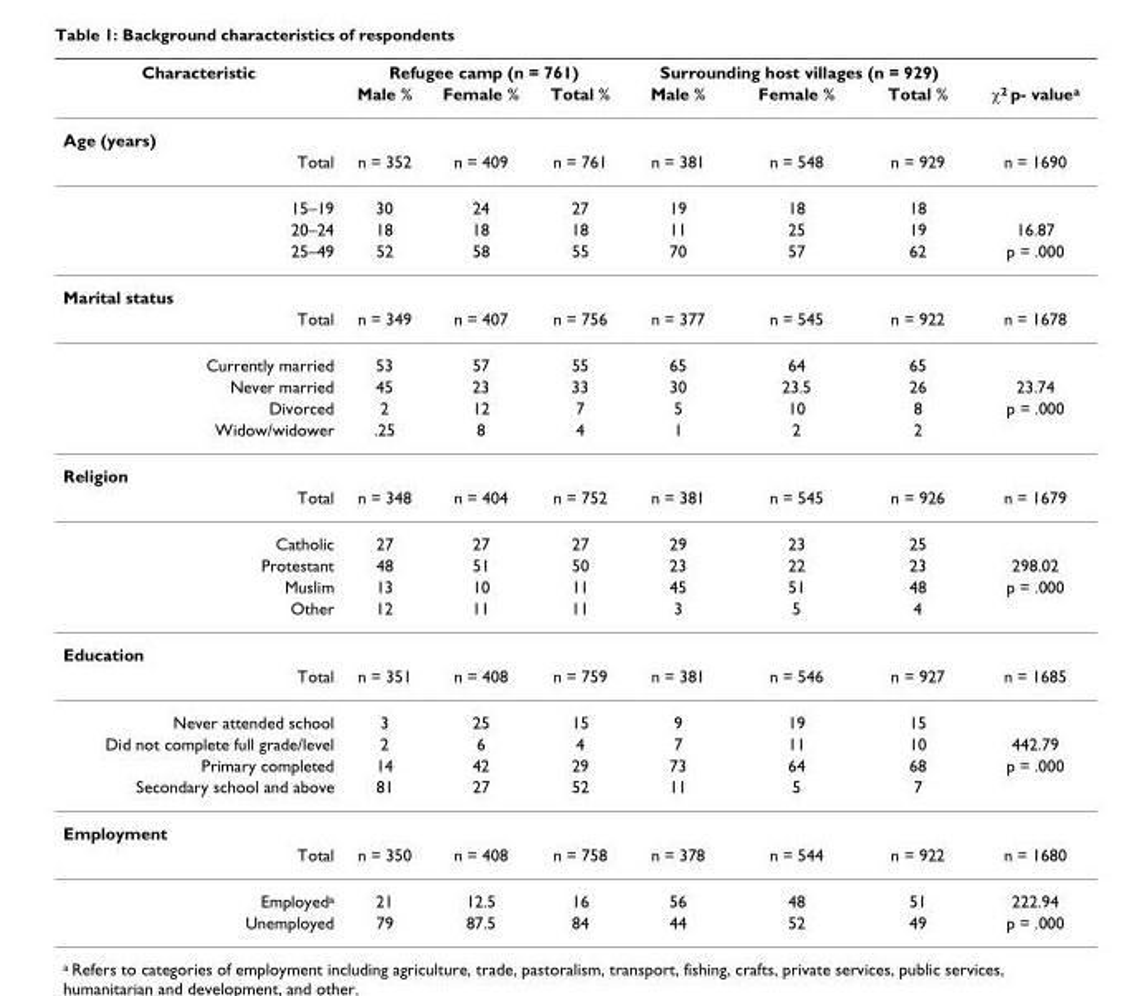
<table><thead><tr><td rowspan="2">Characteristic</td><td colspan="3">Refugee camp (n = 761)</td><td colspan="3">Surrounding host villages (n = 929)</td><td rowspan="2">χ<sup>2</sup> p- value<sup>a</sup></td></tr><tr><td>Male %</td><td>Female %</td><td>Total %</td><td>Male %</td><td>Female %</td><td>Total %</td></tr></thead><tbody><tr><td colspan="8">Age (years)</td></tr><tr><td>Total</td><td>n = 352</td><td>n = 409</td><td>n = 761</td><td>n = 381</td><td>n = 548</td><td>n = 929</td><td>n = 1690</td></tr><tr><td>15–19</td><td>30</td><td>24</td><td>27</td><td>19</td><td>18</td><td>18</td><td></td></tr><tr><td>20–24</td><td>18</td><td>18</td><td>18</td><td>11</td><td>25</td><td>19</td><td>16.87</td></tr><tr><td>25–49</td><td>52</td><td>58</td><td>55</td><td>70</td><td>57</td><td>62</td><td>p = .000</td></tr><tr><td colspan="8">Marital status</td></tr><tr><td>Total</td><td>n = 349</td><td>n = 407</td><td>n = 756</td><td>n = 377</td><td>n = 545</td><td>n = 922</td><td>n = 1678</td></tr><tr><td>Currently married</td><td>53</td><td>57</td><td>55</td><td>65</td><td>64</td><td>65</td><td></td></tr><tr><td>Never married</td><td>45</td><td>23</td><td>33</td><td>30</td><td>23.5</td><td>26</td><td>23.74</td></tr><tr><td>Divorced</td><td>2</td><td>12</td><td>7</td><td>5</td><td>10</td><td>8</td><td>p = .000</td></tr><tr><td>Widow/widower</td><td>.25</td><td>8</td><td>4</td><td>1</td><td>2</td><td>2</td><td></td></tr><tr><td colspan="8">Religion</td></tr><tr><td>Total</td><td>n = 348</td><td>n = 404</td><td>n = 752</td><td>n = 381</td><td>n = 545</td><td>n = 926</td><td>n = 1679</td></tr><tr><td>Catholic</td><td>27</td><td>27</td><td>27</td><td>29</td><td>23</td><td>25</td><td></td></tr><tr><td>Protestant</td><td>48</td><td>51</td><td>50</td><td>23</td><td>22</td><td>23</td><td>298.02</td></tr><tr><td>Muslim</td><td>13</td><td>10</td><td>11</td><td>45</td><td>51</td><td>48</td><td>p = .000</td></tr><tr><td>Other</td><td>12</td><td>11</td><td>11</td><td>3</td><td>5</td><td>4</td><td></td></tr><tr><td colspan="8">Education</td></tr><tr><td>Total</td><td>n = 351</td><td>n = 408</td><td>n = 759</td><td>n = 381</td><td>n = 546</td><td>n = 927</td><td>n = 1685</td></tr><tr><td>Never attended school</td><td>3</td><td>25</td><td>15</td><td>9</td><td>19</td><td>15</td><td></td></tr><tr><td>Did not complete full grade/level</td><td>2</td><td>6</td><td>4</td><td>7</td><td>11</td><td>10</td><td>442.79</td></tr><tr><td>Primary completed</td><td>14</td><td>42</td><td>29</td><td>73</td><td>64</td><td>68</td><td>p = .000</td></tr><tr><td>Secondary school and above</td><td>81</td><td>27</td><td>52</td><td>11</td><td>5</td><td>7</td><td></td></tr><tr><td colspan="8">Employment</td></tr><tr><td>Total</td><td>n = 350</td><td>n = 408</td><td>n = 758</td><td>n = 378</td><td>n = 544</td><td>n = 922</td><td>n = 1680</td></tr><tr><td>Employed<sup>a</sup></td><td>21</td><td>12.5</td><td>16</td><td>56</td><td>48</td><td>51</td><td>222.94</td></tr><tr><td>Unemployed</td><td>79</td><td>87.5</td><td>84</td><td>44</td><td>52</td><td>49</td><td>p = .000</td></tr></tbody></table>